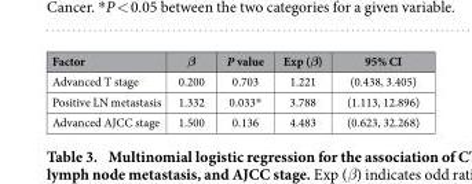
<table><thead><tr><td>Factor</td><td>β</td><td>P value</td><td>Exp (β)</td><td>95% CI</td></tr></thead><tbody><tr><td>Advanced T stage</td><td>0.200</td><td>0.703</td><td>1.221</td><td>(0.438, 3.405)</td></tr><tr><td>Positive LN metastasis</td><td>1.332</td><td>0.033*</td><td>3.788</td><td>(1.113, 12.896)</td></tr><tr><td>Advanced AJCC stage</td><td>1.500</td><td>0.136</td><td>4.483</td><td>(0.623, 32.268)</td></tr></tbody></table>